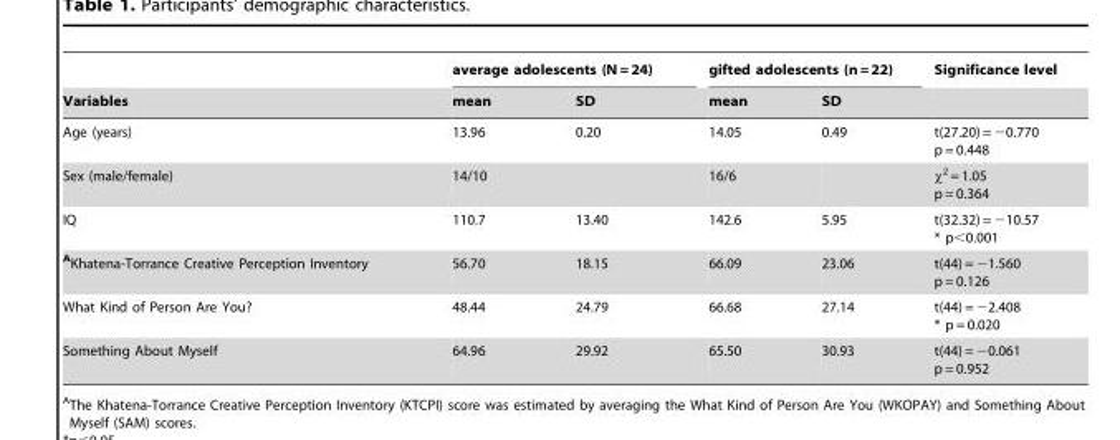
<table><thead><tr><td rowspan="2">Variables</td><td colspan="2">average adolescents (N = 24)</td><td colspan="2">gifted adolescents (n = 22)</td><td rowspan="2">Significance level</td></tr><tr><td>mean</td><td>SD</td><td>mean</td><td>SD</td></tr></thead><tbody><tr><td>Age (years)</td><td>13.96</td><td>0.20</td><td>14.05</td><td>0.49</td><td>t(27.20) = −0.770 p = 0.448</td></tr><tr><td>Sex (male/female)</td><td>14/10</td><td></td><td>16/6</td><td></td><td>χ<sup>2</sup> = 1.05 p = 0.364</td></tr><tr><td>IQ</td><td>110.7</td><td>13.40</td><td>142.6</td><td>5.95</td><td>t(32.32) = −10.57 * p&lt;0.001</td></tr><tr><td>AKhatena-Torrance Creative Perception Inventory</td><td>56.70</td><td>18.15</td><td>66.09</td><td>23.06</td><td>t(44) = −1.560 p = 0.126</td></tr><tr><td>What Kind of Person Are You?</td><td>48.44</td><td>24.79</td><td>66.68</td><td>27.14</td><td>t(44) = −2.408 * p = 0.020</td></tr><tr><td>Something About Myself</td><td>64.96</td><td>29.92</td><td>65.50</td><td>30.93</td><td>t(44) = −0.061 p = 0.952</td></tr></tbody></table>